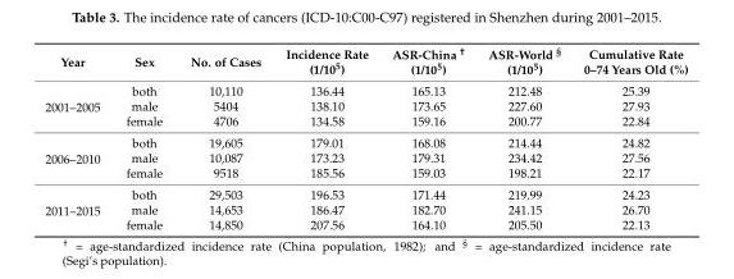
<table><thead><tr><td>Year</td><td>Sex</td><td>No. of Cases</td><td>Incidence Rate (1/10<sup>5</sup>)</td><td>ASR-China <sup>†</sup> (1/10<sup>5</sup>)</td><td>ASR-World <sup>§</sup> (1/10<sup>5</sup>)</td><td>Cumulative Rate 0–74 Years Old (%)</td></tr></thead><tbody><tr><td rowspan="3">2001–2005</td><td>both</td><td>10,110</td><td>136.44</td><td>165.13</td><td>212.48</td><td>25.39</td></tr><tr><td>male</td><td>5404</td><td>138.10</td><td>173.65</td><td>227.60</td><td>27.93</td></tr><tr><td>female</td><td>4706</td><td>134.58</td><td>159.16</td><td>200.77</td><td>22.84</td></tr><tr><td rowspan="3">2006–2010</td><td>both</td><td>19,605</td><td>179.01</td><td>168.08</td><td>214.44</td><td>24.82</td></tr><tr><td>male</td><td>10,087</td><td>173.23</td><td>179.31</td><td>234.42</td><td>27.56</td></tr><tr><td>female</td><td>9518</td><td>185.56</td><td>159.03</td><td>198.21</td><td>22.17</td></tr><tr><td rowspan="3">2011–2015</td><td>both</td><td>29,503</td><td>196.53</td><td>171.44</td><td>219.99</td><td>24.23</td></tr><tr><td>male</td><td>14,653</td><td>186.47</td><td>182.70</td><td>241.15</td><td>26.70</td></tr><tr><td>female</td><td>14,850</td><td>207.56</td><td>164.10</td><td>205.50</td><td>22.13</td></tr></tbody></table>